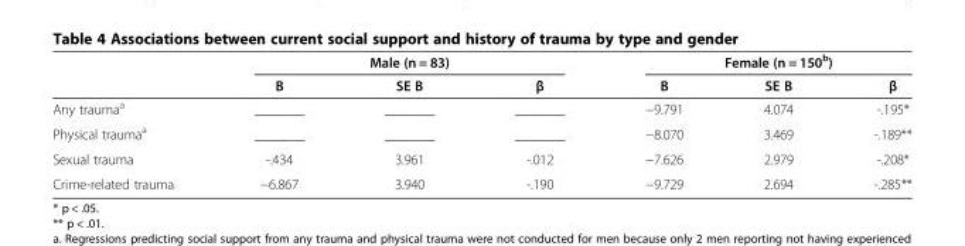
<table><thead><tr><td rowspan="2"></td><td colspan="3">Male (n = 83)</td><td colspan="3">Female (n = 150<sup>b</sup>)</td></tr><tr><td>B</td><td>SE B</td><td>β</td><td>B</td><td>SE B</td><td>β</td></tr></thead><tbody><tr><td>Any trauma<sup>a</sup></td><td>_______</td><td>_______</td><td>_______</td><td>−9.791</td><td>4.074</td><td>-.195*</td></tr><tr><td>Physical trauma<sup>a</sup></td><td>_______</td><td>_______</td><td>_______</td><td>−8.070</td><td>3.469</td><td>-.189**</td></tr><tr><td>Sexual trauma</td><td>-.434</td><td>3.961</td><td>-.012</td><td>−7.626</td><td>2.979</td><td>-.208*</td></tr><tr><td>Crime-related trauma</td><td>−6.867</td><td>3.940</td><td>-.190</td><td>−9.729</td><td>2.694</td><td>-.285**</td></tr></tbody></table>